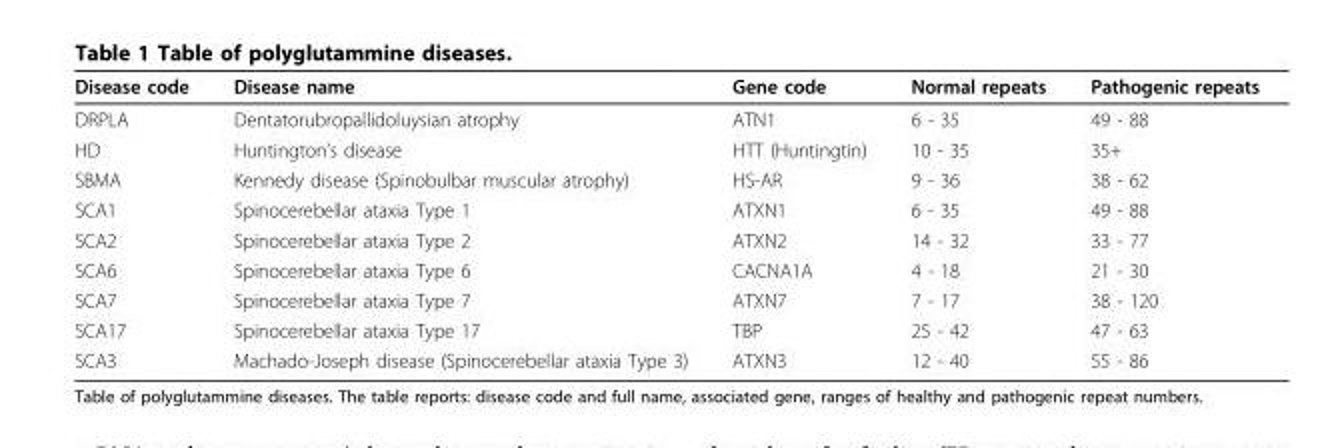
<table><thead><tr><td>Disease code</td><td>Disease name</td><td>Gene code</td><td>Normal repeats</td><td>Pathogenic repeats</td></tr></thead><tbody><tr><td>DRPLA</td><td>Dentatorubropallidoluysian atrophy</td><td>ATN1</td><td>6 - 35</td><td>49 - 88</td></tr><tr><td>HD</td><td>Huntington’s disease</td><td>HTT (Huntingtin)</td><td>10 - 35</td><td>35+</td></tr><tr><td>SBMA</td><td>Kennedy disease (Spinobulbar muscular atrophy)</td><td>HS-AR</td><td>9 - 36</td><td>38 - 62</td></tr><tr><td>SCA1</td><td>Spinocerebellar ataxia Type 1</td><td>ATXN1</td><td>6 - 35</td><td>49 - 88</td></tr><tr><td>SCA2</td><td>Spinocerebellar ataxia Type 2</td><td>ATXN2</td><td>14 - 32</td><td>33 - 77</td></tr><tr><td>SCA6</td><td>Spinocerebellar ataxia Type 6</td><td>CACNA1A</td><td>4 - 18</td><td>21 - 30</td></tr><tr><td>SCA7</td><td>Spinocerebellar ataxia Type 7</td><td>ATXN7</td><td>7 - 17</td><td>38 - 120</td></tr><tr><td>SCA17</td><td>Spinocerebellar ataxia Type 17</td><td>TBP</td><td>25 - 42</td><td>47 - 63</td></tr><tr><td>SCA3</td><td>Machado-Joseph disease (Spinocerebellar ataxia Type 3)</td><td>ATXN3</td><td>12 - 40</td><td>55 - 86</td></tr></tbody></table>